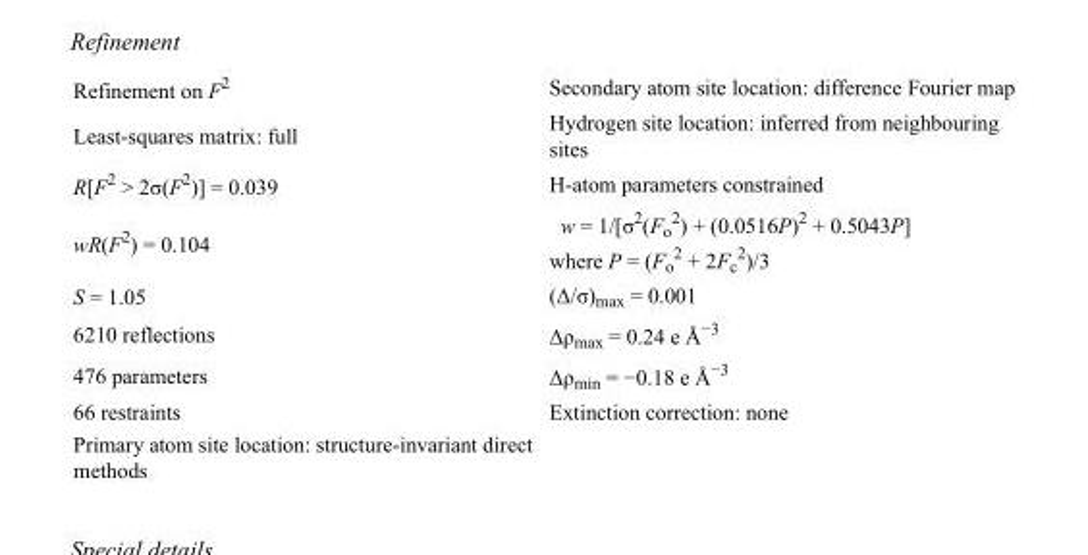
<table><tbody><tr><td>Refinement on F<sup>2</sup></td><td>Secondary atom site location: difference Fourier map</td></tr><tr><td>Least-squares matrix: full</td><td>Hydrogen site location: inferred from neighbouring sites</td></tr><tr><td>R[F<sup>2</sup> &gt; 2σ(F<sup>2</sup>)] = 0.039</td><td>H-atom parameters constrained</td></tr><tr><td>wR(F<sup>2</sup>) = 0.104</td><td>w = 1/[σ<sup>2</sup>(F<sub>o</sub> <sup>2</sup>) + (0.0516P)<sup>2</sup> + 0.5043P] where P = (F<sub>o</sub> <sup>2</sup> + 2F<sub>c</sub> <sup>2</sup>)/3</td></tr><tr><td>S = 1.05</td><td>(Δ/σ)<sub>max</sub> = 0.001</td></tr><tr><td>6210 reflections</td><td>Δρ<sub>max</sub> = 0.24 e Å<sup>−3</sup></td></tr><tr><td>476 parameters</td><td>Δρ<sub>min</sub> = −0.18 e Å<sup>−3</sup></td></tr><tr><td>66 restraints</td><td>Extinction correction: none</td></tr><tr><td>Primary atom site location: structure-invariant direct methods</td><td></td></tr></tbody></table>